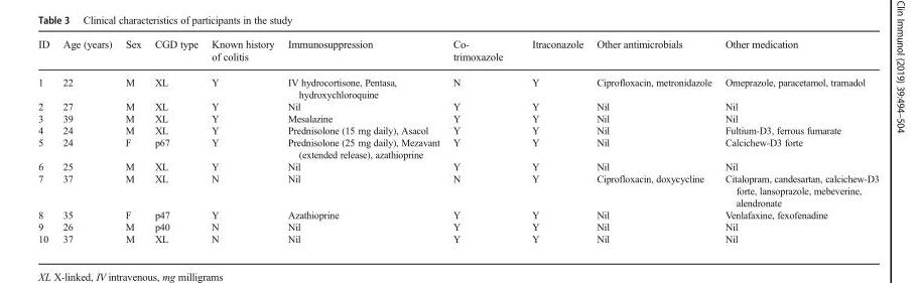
<table><thead><tr><td>ID</td><td>Age (years)</td><td>Sex</td><td>CGD type</td><td>Known history of colitis</td><td>Immunosuppression</td><td>Co- trimoxazole</td><td>Itraconazole</td><td>Other antimicrobials</td><td>Other medication</td></tr></thead><tbody><tr><td>1</td><td>22</td><td>M</td><td>XL</td><td>Y</td><td>IV hydrocortisone, Pentasa, hydroxychloroquine</td><td>N</td><td>Y</td><td>Ciprofloxacin, metronidazole</td><td>Omeprazole, paracetamol, tramadol</td></tr><tr><td>2</td><td>27</td><td>M</td><td>XL</td><td>Y</td><td>Nil</td><td>Y</td><td>Y</td><td>Nil</td><td>Nil</td></tr><tr><td>3</td><td>39</td><td>M</td><td>XL</td><td>Y</td><td>Mesalazine</td><td>Y</td><td>Y</td><td>Nil</td><td>Nil</td></tr><tr><td>4</td><td>24</td><td>M</td><td>XL</td><td>Y</td><td>Prednisolone (15 mg daily), Asacol</td><td>Y</td><td>Y</td><td>Nil</td><td>Fultium-D3, ferrous fumarate</td></tr><tr><td>5</td><td>24</td><td>F</td><td>p67</td><td>Y</td><td>Prednisolone (25 mg daily), Mezavant (extended release), azathioprine</td><td>Y</td><td>Y</td><td>Nil</td><td>Calcichew-D3 forte</td></tr><tr><td>6</td><td>25</td><td>M</td><td>XL</td><td>Y</td><td>Nil</td><td>Y</td><td>Y</td><td>Nil</td><td>Nil</td></tr><tr><td>7</td><td>37</td><td>M</td><td>XL</td><td>N</td><td>Nil</td><td>N</td><td>Y</td><td>Ciprofloxacin, doxycycline</td><td>Citalopram, candesartan, calcichew-D3 forte, lansoprazole, mebeverine, alendronate</td></tr><tr><td>8</td><td>35</td><td>F</td><td>p47</td><td>Y</td><td>Azathioprine</td><td>Y</td><td>Y</td><td>Nil</td><td>Venlafaxine, fexofenadine</td></tr><tr><td>9</td><td>26</td><td>M</td><td>p40</td><td>N</td><td>Nil</td><td>Y</td><td>Y</td><td>Nil</td><td>Nil</td></tr><tr><td>10</td><td>37</td><td>M</td><td>XL</td><td>N</td><td>Nil</td><td>Y</td><td>Y</td><td>Nil</td><td>Nil</td></tr></tbody></table>